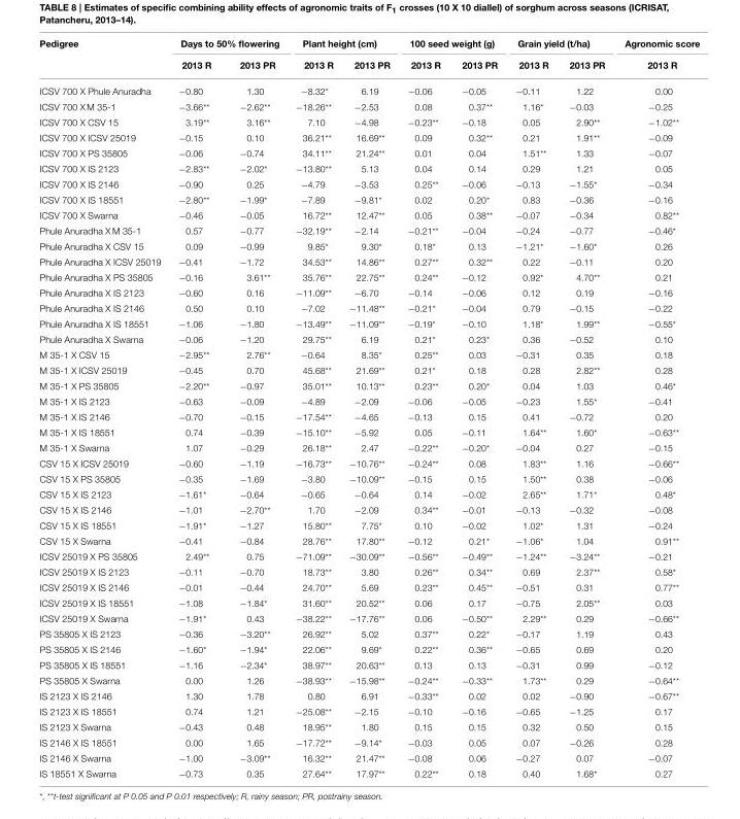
<table><thead><tr><td rowspan="2">Pedigree</td><td colspan="2">Days to 50% flowering</td><td colspan="2">Plant height (cm)</td><td colspan="2">100 seed weight (g)</td><td colspan="2">Grain yield (t/ha)</td><td rowspan="2">Agronomic score 2013 R</td></tr><tr><td>2013 R</td><td>2013 PR</td><td>2013 R</td><td>2013 PR</td><td>2013 R</td><td>2013 PR</td><td>2013 R</td><td>2013 PR</td></tr></thead><tbody><tr><td>ICSV 700 X Phule Anuradha</td><td>−0.80</td><td>1.30</td><td>−8.32*</td><td>6.19</td><td>−0.06</td><td>−0.05</td><td>−0.11</td><td>1.22</td><td>0.00</td></tr><tr><td>ICSV 700 X M 35-1</td><td>−3.66**</td><td>−2.62**</td><td>−18.26**</td><td>−2.53</td><td>0.08</td><td>0.37**</td><td>1.16*</td><td>−0.03</td><td>−0.25</td></tr><tr><td>ICSV 700 X CSV 15</td><td>3.19**</td><td>3.16**</td><td>7.10</td><td>−4.98</td><td>−0.23**</td><td>−0.18</td><td>0.05</td><td>2.90**</td><td>−1.02**</td></tr><tr><td>ICSV 700 X ICSV 25019</td><td>−0.15</td><td>0.10</td><td>36.21**</td><td>16.69**</td><td>0.09</td><td>0.32**</td><td>0.21</td><td>1.91**</td><td>−0.09</td></tr><tr><td>ICSV 700 X PS 35805</td><td>−0.06</td><td>−0.74</td><td>34.11**</td><td>21.24**</td><td>0.01</td><td>0.04</td><td>1.51**</td><td>1.33</td><td>−0.07</td></tr><tr><td>ICSV 700 X IS 2123</td><td>−2.83**</td><td>−2.02*</td><td>−13.80**</td><td>5.13</td><td>0.04</td><td>0.14</td><td>0.29</td><td>1.21</td><td>0.05</td></tr><tr><td>ICSV 700 X IS 2146</td><td>−0.90</td><td>0.25</td><td>−4.79</td><td>−3.53</td><td>0.25**</td><td>−0.06</td><td>−0.13</td><td>−1.55*</td><td>−0.34</td></tr><tr><td>ICSV 700 X IS 18551</td><td>−2.80**</td><td>−1.99*</td><td>−7.89</td><td>−9.81*</td><td>0.02</td><td>0.20*</td><td>0.83</td><td>−0.36</td><td>−0.16</td></tr><tr><td>ICSV 700 X Swarna</td><td>−0.46</td><td>−0.05</td><td>16.72**</td><td>12.47**</td><td>0.05</td><td>0.38**</td><td>−0.07</td><td>−0.34</td><td>0.82**</td></tr><tr><td>Phule Anuradha X M 35-1</td><td>0.57</td><td>−0.77</td><td>−32.19**</td><td>−2.14</td><td>−0.21**</td><td>−0.04</td><td>−0.24</td><td>−0.77</td><td>−0.46*</td></tr><tr><td>Phule Anuradha X CSV 15</td><td>0.09</td><td>−0.99</td><td>9.85*</td><td>9.30*</td><td>0.18*</td><td>0.13</td><td>−1.21*</td><td>−1.60*</td><td>0.26</td></tr><tr><td>Phule Anuradha X ICSV 25019</td><td>−0.41</td><td>−1.72</td><td>34.53**</td><td>14.86**</td><td>0.27**</td><td>0.32**</td><td>0.22</td><td>−0.11</td><td>0.20</td></tr><tr><td>Phule Anuradha X PS 35805</td><td>−0.16</td><td>3.61**</td><td>35.76**</td><td>22.75**</td><td>0.24**</td><td>−0.12</td><td>0.92*</td><td>4.70**</td><td>0.21</td></tr><tr><td>Phule Anuradha X IS 2123</td><td>−0.60</td><td>0.16</td><td>−11.09**</td><td>−6.70</td><td>−0.14</td><td>−0.06</td><td>0.12</td><td>0.19</td><td>−0.16</td></tr><tr><td>Phule Anuradha X IS 2146</td><td>0.50</td><td>0.10</td><td>−7.02</td><td>−11.48**</td><td>−0.21*</td><td>−0.04</td><td>0.79</td><td>−0.15</td><td>−0.22</td></tr><tr><td>Phule Anuradha X IS 18551</td><td>−1.06</td><td>−1.80</td><td>−13.49**</td><td>−11.09**</td><td>−0.19*</td><td>−0.10</td><td>1.18*</td><td>1.99**</td><td>−0.55*</td></tr><tr><td>Phule Anuradha X Swarna</td><td>−0.06</td><td>−1.20</td><td>29.75**</td><td>6.19</td><td>0.21*</td><td>0.23*</td><td>0.36</td><td>−0.52</td><td>0.10</td></tr><tr><td>M 35-1 X CSV 15</td><td>−2.95**</td><td>2.76**</td><td>−0.64</td><td>8.35*</td><td>0.25**</td><td>0.03</td><td>−0.31</td><td>0.35</td><td>0.18</td></tr><tr><td>M 35-1 X ICSV 25019</td><td>−0.45</td><td>0.70</td><td>45.68**</td><td>21.69**</td><td>0.21*</td><td>0.18</td><td>0.28</td><td>2.82**</td><td>0.28</td></tr><tr><td>M 35-1 X PS 35805</td><td>−2.20**</td><td>−0.97</td><td>35.01**</td><td>10.13**</td><td>0.23**</td><td>0.20*</td><td>0.04</td><td>1.03</td><td>0.46*</td></tr><tr><td>M 35-1 X IS 2123</td><td>−0.63</td><td>−0.09</td><td>−4.89</td><td>−2.09</td><td>−0.06</td><td>−0.05</td><td>−0.23</td><td>1.55*</td><td>−0.41</td></tr><tr><td>M 35-1 X IS 2146</td><td>−0.70</td><td>−0.15</td><td>−17.54**</td><td>−4.65</td><td>−0.13</td><td>0.15</td><td>0.41</td><td>−0.72</td><td>0.20</td></tr><tr><td>M 35-1 X IS 18551</td><td>0.74</td><td>−0.39</td><td>−15.10**</td><td>−5.92</td><td>0.05</td><td>−0.11</td><td>1.64**</td><td>1.60*</td><td>−0.63**</td></tr><tr><td>M 35-1 X Swarna</td><td>1.07</td><td>−0.29</td><td>26.18**</td><td>2.47</td><td>−0.22**</td><td>−0.20*</td><td>−0.04</td><td>0.27</td><td>−0.15</td></tr><tr><td>CSV 15 X ICSV 25019</td><td>−0.60</td><td>−1.19</td><td>−16.73**</td><td>−10.76**</td><td>−0.24**</td><td>0.08</td><td>1.83**</td><td>1.16</td><td>−0.66**</td></tr><tr><td>CSV 15 X PS 35805</td><td>−0.35</td><td>−1.69</td><td>−3.80</td><td>−10.09**</td><td>−0.15</td><td>0.15</td><td>1.50**</td><td>0.38</td><td>−0.06</td></tr><tr><td>CSV 15 X IS 2123</td><td>−1.61*</td><td>−0.64</td><td>−0.65</td><td>−0.64</td><td>0.14</td><td>−0.02</td><td>2.65**</td><td>1.71*</td><td>0.48*</td></tr><tr><td>CSV 15 X IS 2146</td><td>−1.01</td><td>−2.70**</td><td>1.70</td><td>−2.09</td><td>0.34**</td><td>−0.01</td><td>−0.13</td><td>−0.32</td><td>−0.08</td></tr><tr><td>CSV 15 X IS 18551</td><td>−1.91*</td><td>−1.27</td><td>15.80**</td><td>7.75*</td><td>0.10</td><td>−0.02</td><td>1.02*</td><td>1.31</td><td>−0.24</td></tr><tr><td>CSV 15 X Swarna</td><td>−0.41</td><td>−0.84</td><td>28.76**</td><td>17.80**</td><td>−0.12</td><td>0.21*</td><td>−1.06*</td><td>1.04</td><td>0.91**</td></tr><tr><td>ICSV 25019 X PS 35805</td><td>2.49**</td><td>0.75</td><td>−71.09**</td><td>−30.09**</td><td>−0.56**</td><td>−0.49**</td><td>−1.24**</td><td>−3.24**</td><td>−0.21</td></tr><tr><td>ICSV 25019 X IS 2123</td><td>−0.11</td><td>−0.70</td><td>18.73**</td><td>3.80</td><td>0.26**</td><td>0.34**</td><td>0.69</td><td>2.37**</td><td>0.58*</td></tr><tr><td>ICSV 25019 X IS 2146</td><td>−0.01</td><td>−0.44</td><td>24.70**</td><td>5.69</td><td>0.23**</td><td>0.45**</td><td>−0.51</td><td>0.31</td><td>0.77**</td></tr><tr><td>ICSV 25019 X IS 18551</td><td>−1.08</td><td>−1.84*</td><td>31.60**</td><td>20.52**</td><td>0.06</td><td>0.17</td><td>−0.75</td><td>2.05**</td><td>0.03</td></tr><tr><td>ICSV 25019 X Swarna</td><td>−1.91*</td><td>0.43</td><td>−38.22**</td><td>−17.76**</td><td>0.06</td><td>−0.50**</td><td>2.29**</td><td>0.29</td><td>−0.66**</td></tr><tr><td>PS 35805 X IS 2123</td><td>−0.36</td><td>−3.20**</td><td>26.92**</td><td>5.02</td><td>0.37**</td><td>0.22*</td><td>−0.17</td><td>1.19</td><td>0.43</td></tr><tr><td>PS 35805 X IS 2146</td><td>−1.60*</td><td>−1.94*</td><td>22.06**</td><td>9.69*</td><td>0.22**</td><td>0.36**</td><td>−0.65</td><td>0.69</td><td>0.20</td></tr><tr><td>PS 35805 X IS 18551</td><td>−1.16</td><td>−2.34*</td><td>38.97**</td><td>20.63**</td><td>0.13</td><td>0.13</td><td>−0.31</td><td>0.99</td><td>−0.12</td></tr><tr><td>PS 35805 X Swarna</td><td>0.00</td><td>1.26</td><td>−38.93**</td><td>−15.98**</td><td>−0.24**</td><td>−0.33**</td><td>1.73**</td><td>0.29</td><td>−0.64**</td></tr><tr><td>IS 2123 X IS 2146</td><td>1.30</td><td>1.78</td><td>0.80</td><td>6.91</td><td>−0.33**</td><td>0.02</td><td>0.02</td><td>−0.90</td><td>−0.67**</td></tr><tr><td>IS 2123 X IS 18551</td><td>0.74</td><td>1.21</td><td>−25.08**</td><td>−2.15</td><td>−0.10</td><td>−0.16</td><td>−0.65</td><td>−1.25</td><td>0.17</td></tr><tr><td>IS 2123 X Swarna</td><td>−0.43</td><td>0.48</td><td>18.95**</td><td>1.80</td><td>0.15</td><td>0.15</td><td>0.32</td><td>0.50</td><td>0.15</td></tr><tr><td>IS 2146 X IS 18551</td><td>0.00</td><td>1.65</td><td>−17.72**</td><td>−9.14*</td><td>−0.03</td><td>0.05</td><td>0.07</td><td>−0.26</td><td>0.28</td></tr><tr><td>IS 2146 X Swarna</td><td>−1.00</td><td>−3.09**</td><td>16.32**</td><td>21.47**</td><td>−0.08</td><td>0.06</td><td>−0.27</td><td>0.07</td><td>−0.07</td></tr><tr><td>IS 18551 X Swarna</td><td>−0.73</td><td>0.35</td><td>27.64**</td><td>17.97**</td><td>0.22**</td><td>0.18</td><td>0.40</td><td>1.68*</td><td>0.27</td></tr></tbody></table>